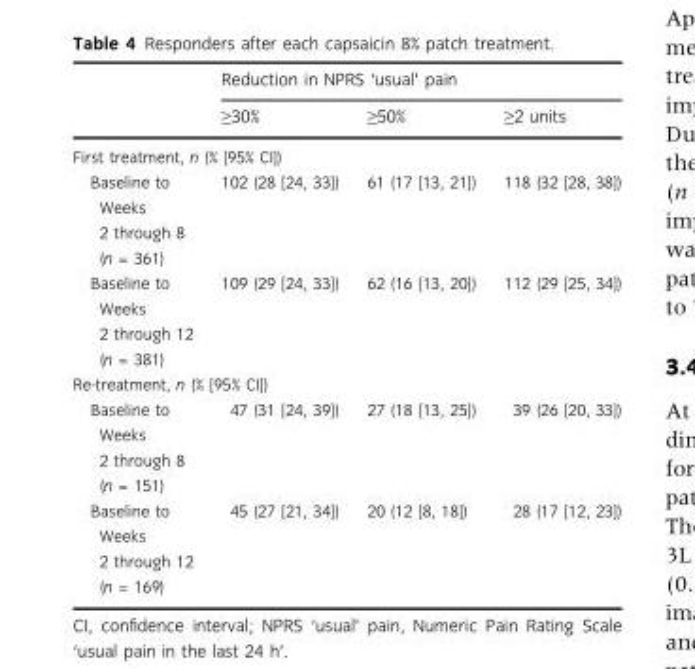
<table><thead><tr><td rowspan="2"></td><td colspan="3">Reduction in NPRS ‘usual’ pain</td></tr><tr><td>≥30%</td><td>≥50%</td><td>≥2 units</td></tr></thead><tbody><tr><td colspan="4">First treatment, n (% [95% CI])</td></tr><tr><td>Baseline to Weeks 2 through 8 (n = 361)</td><td>102 (28 [24, 33])</td><td>61 (17 [13, 21])</td><td>118 (32 [28, 38])</td></tr><tr><td>Baseline to Weeks 2 through 12 (n = 381)</td><td>109 (29 [24, 33])</td><td>62 (16 [13, 20])</td><td>112 (29 [25, 34])</td></tr><tr><td colspan="4">Re-treatment, n (% [95% CI])</td></tr><tr><td>Baseline to Weeks 2 through 8 (n = 151)</td><td>47 (31 [24, 39])</td><td>27 (18 [13, 25])</td><td>39 (26 [20, 33])</td></tr><tr><td>Baseline to Weeks 2 through 12 (n = 169)</td><td>45 (27 [21, 34])</td><td>20 (12 [8, 18])</td><td>28 (17 [12, 23])</td></tr></tbody></table>